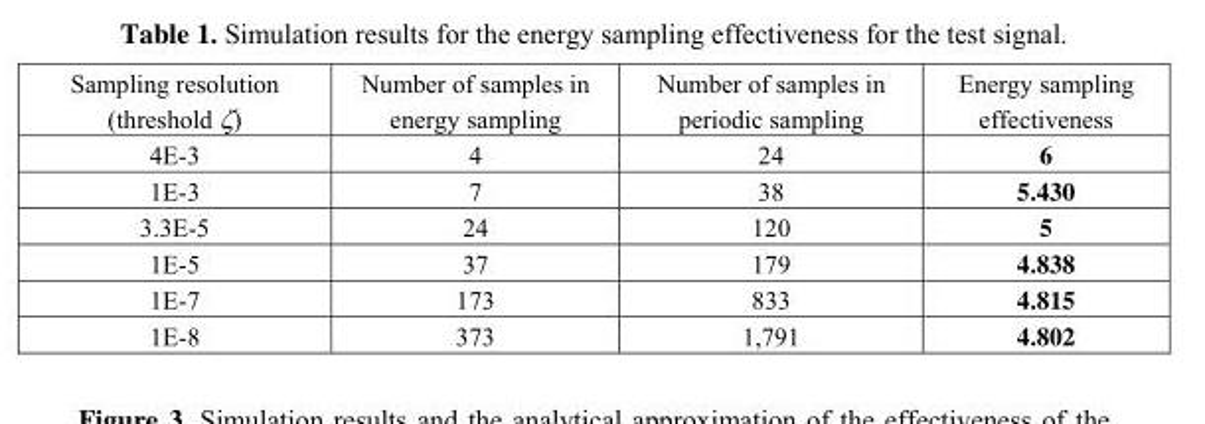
<table><thead><tr><td>Sampling resolution (threshold ζ)</td><td>Number of samples in energy sampling</td><td>Number of samples in periodic sampling</td><td>Energy sampling effectiveness</td></tr></thead><tbody><tr><td>4E-3</td><td>4</td><td>24</td><td>6</td></tr><tr><td>1E-3</td><td>7</td><td>38</td><td>5.430</td></tr><tr><td>3.3E-5</td><td>24</td><td>120</td><td>5</td></tr><tr><td>1E-5</td><td>37</td><td>179</td><td>4.838</td></tr><tr><td>1E-7</td><td>173</td><td>833</td><td>4.815</td></tr><tr><td>1E-8</td><td>373</td><td>1,791</td><td>4.802</td></tr></tbody></table>